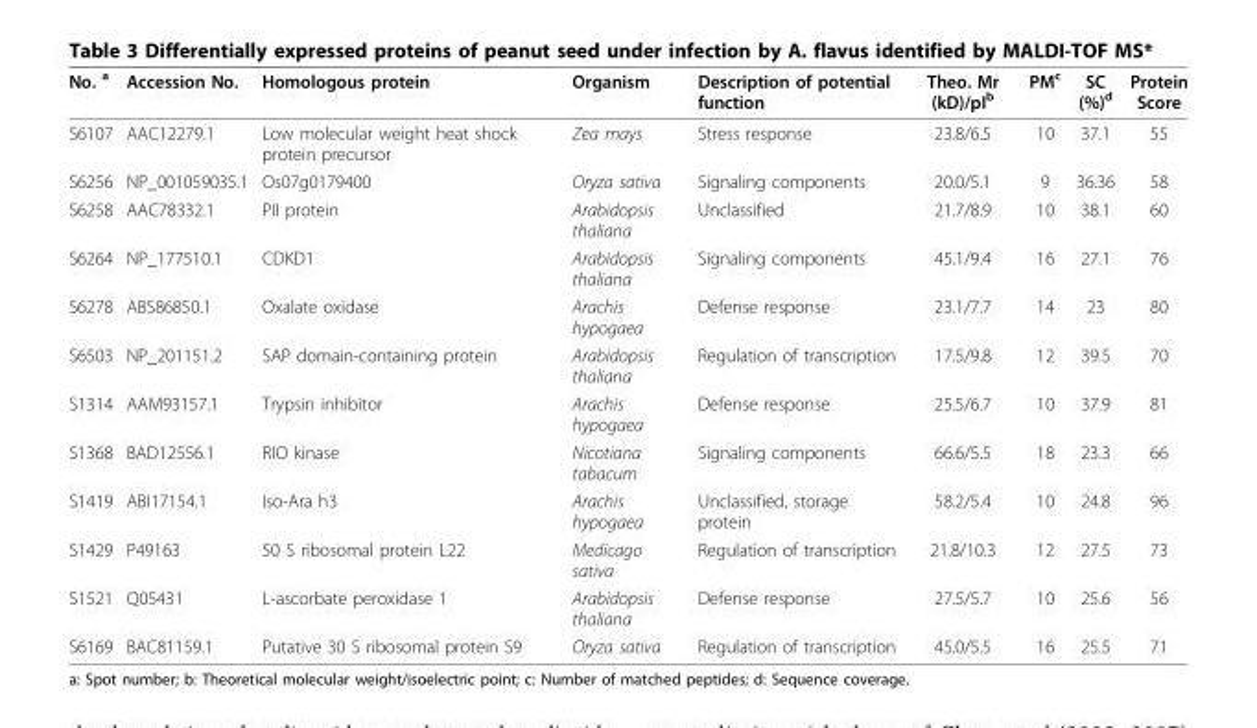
<table><thead><tr><td>No. <sup>a</sup></td><td>Accession No.</td><td>Homologous protein</td><td>Organism</td><td>Description of potential function</td><td>Theo. Mr (kD)/pI<sup>b</sup></td><td>PM<sup>c</sup></td><td>SC (%)<sup>d</sup></td><td>Protein Score</td></tr></thead><tbody><tr><td>S6107</td><td>AAC12279.1</td><td>Low molecular weight heat shock protein precursor</td><td>Zea mays</td><td>Stress response</td><td>23.8/6.5</td><td>10</td><td>37.1</td><td>55</td></tr><tr><td>S6256</td><td>NP_001059035.1</td><td>Os07g0179400</td><td>Oryza sativa</td><td>Signaling components</td><td>20.0/5.1</td><td>9</td><td>36.36</td><td>58</td></tr><tr><td>S6258</td><td>AAC78332.1</td><td>PII protein</td><td>Arabidopsis thaliana</td><td>Unclassified</td><td>21.7/8.9</td><td>10</td><td>38.1</td><td>60</td></tr><tr><td>S6264</td><td>NP_177510.1</td><td>CDKD1</td><td>Arabidopsis thaliana</td><td>Signaling components</td><td>45.1/9.4</td><td>16</td><td>27.1</td><td>76</td></tr><tr><td>S6278</td><td>ABS86850.1</td><td>Oxalate oxidase</td><td>Arachis hypogaea</td><td>Defense response</td><td>23.1/7.7</td><td>14</td><td>23</td><td>80</td></tr><tr><td>S6503</td><td>NP_201151.2</td><td>SAP domain-containing protein</td><td>Arabidopsis thaliana</td><td>Regulation of transcription</td><td>17.5/9.8</td><td>12</td><td>39.5</td><td>70</td></tr><tr><td>S1314</td><td>AAM93157.1</td><td>Trypsin inhibitor</td><td>Arachis hypogaea</td><td>Defense response</td><td>25.5/6.7</td><td>10</td><td>37.9</td><td>81</td></tr><tr><td>S1368</td><td>BAD12556.1</td><td>RIO kinase</td><td>Nicotiana tabacum</td><td>Signaling components</td><td>66.6/5.5</td><td>18</td><td>23.3</td><td>66</td></tr><tr><td>S1419</td><td>ABI17154.1</td><td>Iso-Ara h3</td><td>Arachis hypogaea</td><td>Unclassified, storage protein</td><td>58.2/5.4</td><td>10</td><td>24.8</td><td>96</td></tr><tr><td>S1429</td><td>P49163</td><td>50 S ribosomal protein L22</td><td>Medicago sativa</td><td>Regulation of transcription</td><td>21.8/10.3</td><td>12</td><td>27.5</td><td>73</td></tr><tr><td>S1521</td><td>Q05431</td><td>L-ascorbate peroxidase 1</td><td>Arabidopsis thaliana</td><td>Defense response</td><td>27.5/5.7</td><td>10</td><td>25.6</td><td>56</td></tr><tr><td>S6169</td><td>BAC81159.1</td><td>Putative 30 S ribosomal protein S9</td><td>Oryza sativa</td><td>Regulation of transcription</td><td>45.0/5.5</td><td>16</td><td>25.5</td><td>71</td></tr></tbody></table>